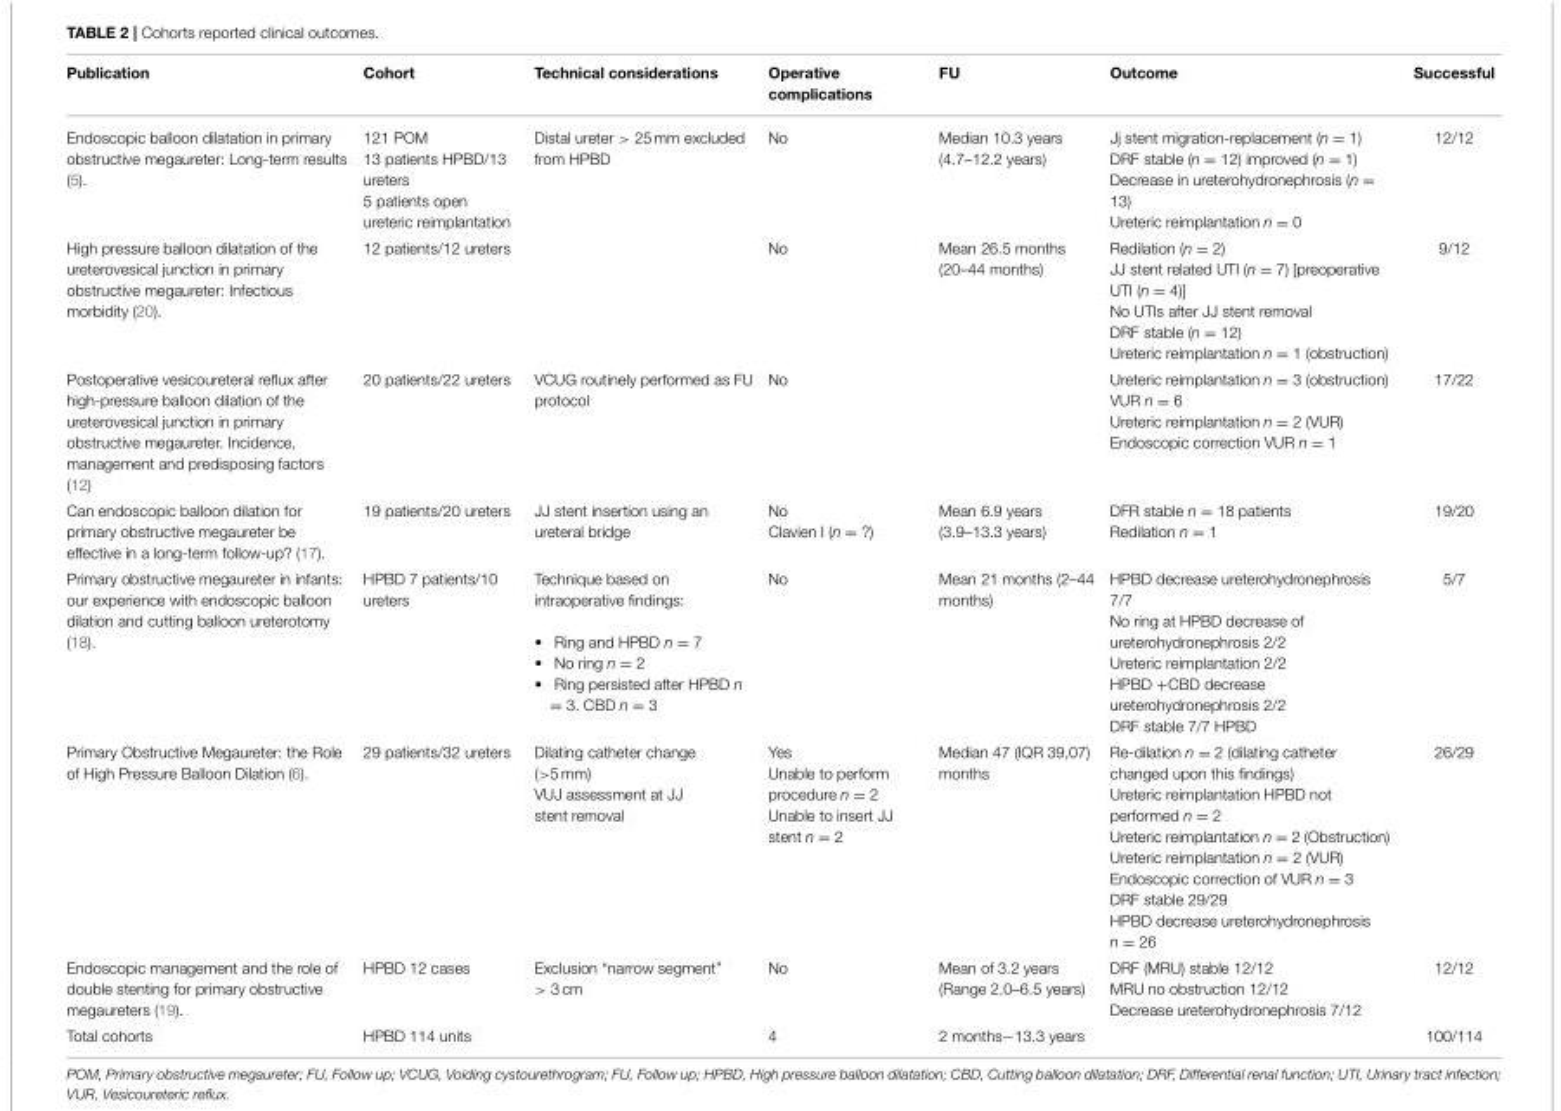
<table><thead><tr><td>Publication</td><td>Cohort</td><td>Technical considerations</td><td>Operative complications</td><td>FU</td><td>Outcome</td><td>Successful</td></tr></thead><tbody><tr><td>Endoscopic balloon dilatation in primary obstructive megaureter: Long-term results (5).</td><td>121 POM 13 patients HPBD/13 ureters 5 patients open ureteric reimplantation</td><td>Distal ureter &gt; 25 mm excluded from HPBD</td><td>No</td><td>Median 10.3 years (4.7–12.2 years)</td><td>Jj stent migration-replacement (n = 1) DRF stable (n = 12) improved (n = 1) Decrease in ureterohydronephrosis (n = 13) Ureteric reimplantation n = 0</td><td>12/12</td></tr><tr><td>High pressure balloon dilatation of the ureterovesical junction in primary obstructive megaureter: Infectious morbidity (20).</td><td>12 patients/12 ureters</td><td></td><td>No</td><td>Mean 26.5 months (20–44 months)</td><td>Redilation (n = 2) JJ stent related UTI (n = 7) [preoperative UTI (n = 4)] No UTIs after JJ stent removal DRF stable (n = 12) Ureteric reimplantation n = 1 (obstruction)</td><td>9/12</td></tr><tr><td>Postoperative vesicoureteral reflux after high-pressure balloon dilation of the ureterovesical junction in primary obstructive megaureter. Incidence, management and predisposing factors (12)</td><td>20 patients/22 ureters</td><td>VCUG routinely performed as FU protocol</td><td>No</td><td></td><td>Ureteric reimplantation n = 3 (obstruction) VUR n = 6 Ureteric reimplantation n = 2 (VUR) Endoscopic correction VUR n = 1</td><td>17/22</td></tr><tr><td>Can endoscopic balloon dilation for primary obstructive megaureter be effective in a long-term follow-up? (17).</td><td>19 patients/20 ureters</td><td>JJ stent insertion using an ureteral bridge</td><td>No Clavien I (n = ?)</td><td>Mean 6.9 years (3.9–13.3 years)</td><td>DFR stable n = 18 patients Redilation n = 1</td><td>19/20</td></tr><tr><td>Primary obstructive megaureter in infants: our experience with endoscopic balloon dilation and cutting balloon ureterotomy (18).</td><td>HPBD 7 patients/10 ureters</td><td>Technique based on intraoperative findings: • Ring and HPBD n = 7 • No ring n = 2 • Ring persisted after HPBD n = 3. CBD n = 3</td><td>No</td><td>Mean 21 months (2–44 months)</td><td>HPBD decrease ureterohydronephrosis 7/7 No ring at HPBD decrease of ureterohydronephrosis 2/2 Ureteric reimplantation 2/2 HPBD +CBD decrease ureterohydronephrosis 2/2 DRF stable 7/7 HPBD</td><td>5/7</td></tr><tr><td>Primary Obstructive Megaureter: the Role of High Pressure Balloon Dilation (6).</td><td>29 patients/32 ureters</td><td>Dilating catheter change (&gt;5 mm) VUJ assessment at JJ stent removal</td><td>Yes Unable to perform procedure n = 2 Unable to insert JJ stent n = 2</td><td>Median 47 (IQR 39,07) months</td><td>Re-dilation n = 2 (dilating catheter changed upon this findings) Ureteric reimplantation HPBD not performed n = 2 Ureteric reimplantation n = 2 (Obstruction) Ureteric reimplantation n = 2 (VUR) Endoscopic correction of VUR n = 3 DRF stable 29/29 HPBD decrease ureterohydronephrosis n = 26</td><td>26/29</td></tr><tr><td>Endoscopic management and the role of double stenting for primary obstructive megaureters (19).</td><td>HPBD 12 cases</td><td>Exclusion “narrow segment” &gt; 3 cm</td><td>No</td><td>Mean of 3.2 years (Range 2.0–6.5 years)</td><td>DRF (MRU) stable 12/12 MRU no obstruction 12/12 Decrease ureterohydronephrosis 7/12</td><td>12/12</td></tr><tr><td>Total cohorts</td><td>HPBD 114 units</td><td></td><td>4</td><td>2 months−13.3 years</td><td></td><td>100/114</td></tr></tbody></table>